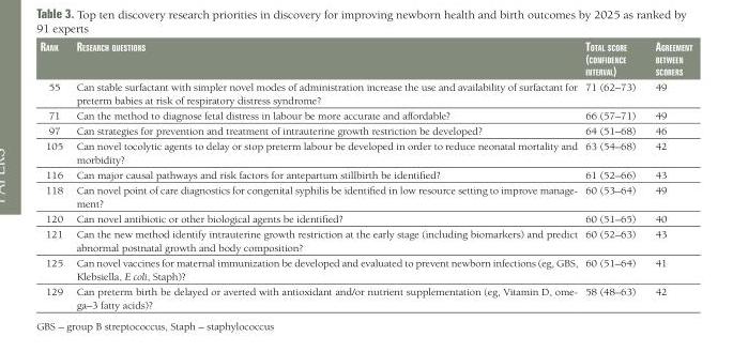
<table><thead><tr><td>Rank</td><td>ReseaRch questions</td><td>total scoRe (confiDence inteRval)</td><td>agReement between scoReRs</td></tr></thead><tbody><tr><td>55</td><td>Can stable surfactant with simpler novel modes of administration increase the use and availability of surfactant for preterm babies at risk of respiratory distress syndrome?</td><td>71 (62–73)</td><td>49</td></tr><tr><td>71</td><td>Can the method to diagnose fetal distress in labour be more accurate and affordable?</td><td>66 (57–71)</td><td>49</td></tr><tr><td>97</td><td>Can strategies for prevention and treatment of intrauterine growth restriction be developed?</td><td>64 (51–68)</td><td>46</td></tr><tr><td>105</td><td>Can novel tocolytic agents to delay or stop preterm labour be developed in order to reduce neonatal mortality and morbidity?</td><td>63 (54–68)</td><td>42</td></tr><tr><td>116</td><td>Can major causal pathways and risk factors for antepartum stillbirth be identified?</td><td>61 (52–66)</td><td>43</td></tr><tr><td>118</td><td>Can novel point of care diagnostics for congenital syphilis be identified in low resource setting to improve manage- ment?</td><td>60 (53–64)</td><td>49</td></tr><tr><td>120</td><td>Can novel antibiotic or other biological agents be identified?</td><td>60 (51–65)</td><td>40</td></tr><tr><td>121</td><td>Can the new method identify intrauterine growth restriction at the early stage (including biomarkers) and predict abnormal postnatal growth and body composition?</td><td>60 (52–63)</td><td>43</td></tr><tr><td>125</td><td>Can novel vaccines for maternal immunization be developed and evaluated to prevent newborn infections (eg, GBS, Klebsiella, E coli, Staph)?</td><td>60 (51–64)</td><td>41</td></tr><tr><td>129</td><td>Can preterm birth be delayed or averted with antioxidant and/or nutrient supplementation (eg, Vitamin D, ome- ga–3 fatty acids)?</td><td>58 (48–63)</td><td>42</td></tr></tbody></table>